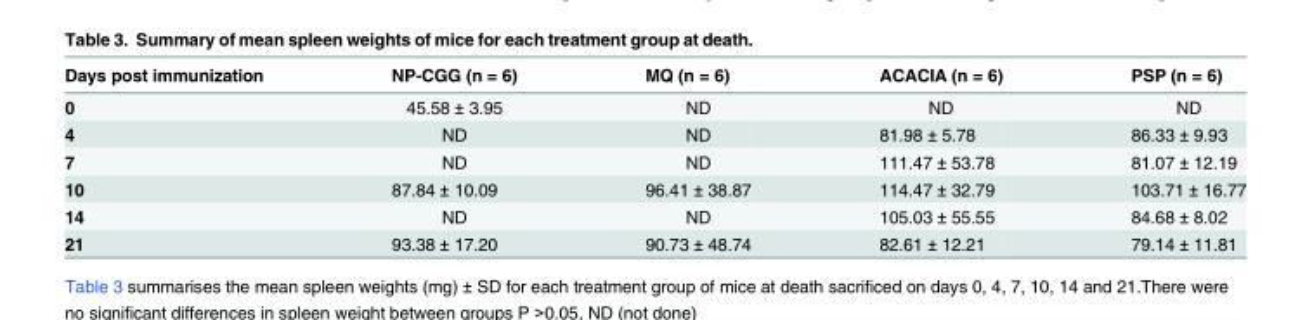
<table><thead><tr><td>Days post immunization</td><td>NP-CGG (n = 6)</td><td>MQ (n = 6)</td><td>ACACIA (n = 6)</td><td>PSP (n = 6)</td></tr></thead><tbody><tr><td>0</td><td>45.58 ± 3.95</td><td>ND</td><td>ND</td><td>ND</td></tr><tr><td>4</td><td>ND</td><td>ND</td><td>81.98 ± 5.78</td><td>86.33 ± 9.93</td></tr><tr><td>7</td><td>ND</td><td>ND</td><td>111.47 ± 53.78</td><td>81.07 ± 12.19</td></tr><tr><td>10</td><td>87.84 ± 10.09</td><td>96.41 ± 38.87</td><td>114.47 ± 32.79</td><td>103.71 ± 16.77</td></tr><tr><td>14</td><td>ND</td><td>ND</td><td>105.03 ± 55.55</td><td>84.68 ± 8.02</td></tr><tr><td>21</td><td>93.38 ± 17.20</td><td>90.73 ± 48.74</td><td>82.61 ± 12.21</td><td>79.14 ± 11.81</td></tr></tbody></table>